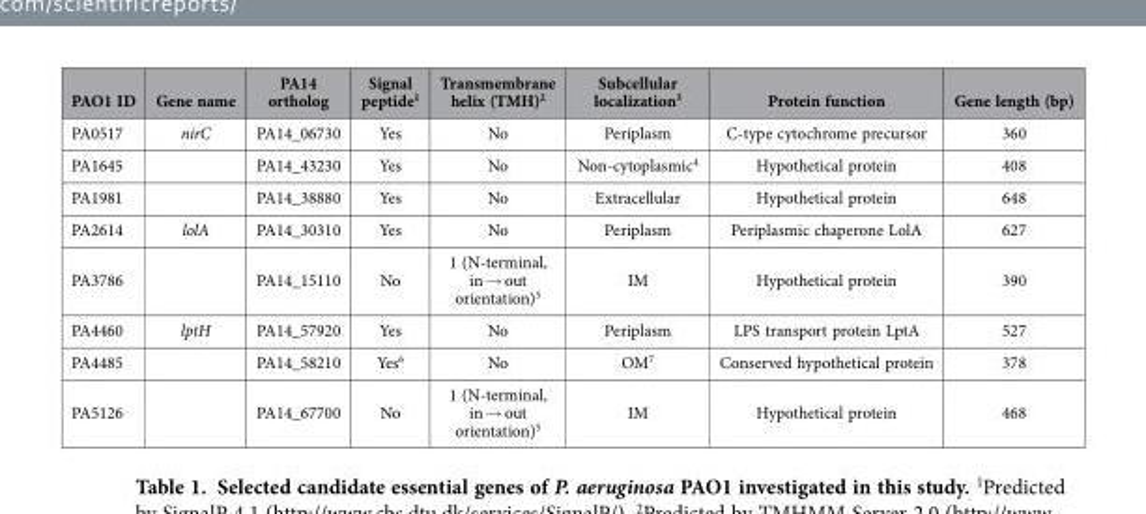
<table><thead><tr><td>PAO1 ID</td><td>Gene name</td><td>PA14 ortholog</td><td>Signal peptide<sup>1</sup></td><td>Transmembrane helix (TMH)<sup>2</sup></td><td>Subcellular localization<sup>3</sup></td><td>Protein function</td><td>Gene length (bp)</td></tr></thead><tbody><tr><td>PA0517</td><td>nirC</td><td>PA14_06730</td><td>Yes</td><td>No</td><td>Periplasm</td><td>C-type cytochrome precursor</td><td>360</td></tr><tr><td>PA1645</td><td></td><td>PA14_43230</td><td>Yes</td><td>No</td><td>Non-cytoplasmic<sup>4</sup></td><td>Hypothetical protein</td><td>408</td></tr><tr><td>PA1981</td><td></td><td>PA14_38880</td><td>Yes</td><td>No</td><td>Extracellular</td><td>Hypothetical protein</td><td>648</td></tr><tr><td>PA2614</td><td>lolA</td><td>PA14_30310</td><td>Yes</td><td>No</td><td>Periplasm</td><td>Periplasmic chaperone LolA</td><td>627</td></tr><tr><td>PA3786</td><td></td><td>PA14_15110</td><td>No</td><td>1 (N-terminal, in → out orientation)<sup>5</sup></td><td>IM</td><td>Hypothetical protein</td><td>390</td></tr><tr><td>PA4460</td><td>lptH</td><td>PA14_57920</td><td>Yes</td><td>No</td><td>Periplasm</td><td>LPS transport protein LptA</td><td>527</td></tr><tr><td>PA4485</td><td></td><td>PA14_58210</td><td>Yes<sup>6</sup></td><td>No</td><td>OM<sup>7</sup></td><td>Conserved hypothetical protein</td><td>378</td></tr><tr><td>PA5126</td><td></td><td>PA14_67700</td><td>No</td><td>1 (N-terminal, in → out orientation)<sup>5</sup></td><td>IM</td><td>Hypothetical protein</td><td>468</td></tr></tbody></table>